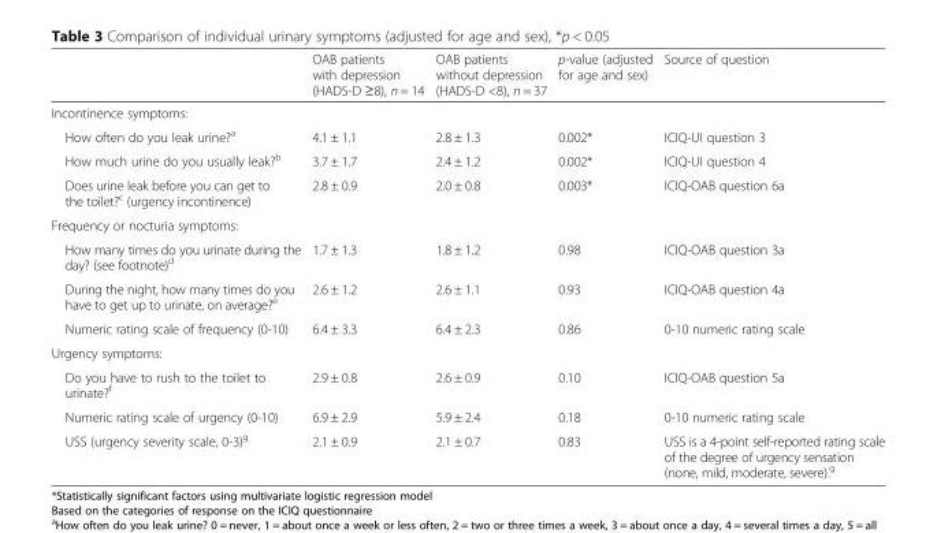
<table><thead><tr><td></td><td>OAB patients with depression (HADS-D ≥8), n = 14</td><td>OAB patients without depression (HADS-D &lt;8), n = 37</td><td>p-value (adjusted for age and sex)</td><td>Source of question</td></tr></thead><tbody><tr><td colspan="5">Incontinence symptoms:</td></tr><tr><td>How often do you leak urine?<sup>a</sup></td><td>4.1 ± 1.1</td><td>2.8 ± 1.3</td><td>0.002*</td><td>ICIQ-UI question 3</td></tr><tr><td>How much urine do you usually leak?<sup>b</sup></td><td>3.7 ± 1.7</td><td>2.4 ± 1.2</td><td>0.002*</td><td>ICIQ-UI question 4</td></tr><tr><td>Does urine leak before you can get to the toilet?<sup>c</sup> (urgency incontinence)</td><td>2.8 ± 0.9</td><td>2.0 ± 0.8</td><td>0.003*</td><td>ICIQ-OAB question 6a</td></tr><tr><td colspan="5">Frequency or nocturia symptoms:</td></tr><tr><td>How many times do you urinate during the day? (see footnote)<sup>d</sup></td><td>1.7 ± 1.3</td><td>1.8 ± 1.2</td><td>0.98</td><td>ICIQ-OAB question 3a</td></tr><tr><td>During the night, how many times do you have to get up to urinate, on average?<sup>e</sup></td><td>2.6 ± 1.2</td><td>2.6 ± 1.1</td><td>0.93</td><td>ICIQ-OAB question 4a</td></tr><tr><td>Numeric rating scale of frequency (0-10)</td><td>6.4 ± 3.3</td><td>6.4 ± 2.3</td><td>0.86</td><td>0-10 numeric rating scale</td></tr><tr><td colspan="5">Urgency symptoms:</td></tr><tr><td>Do you have to rush to the toilet to urinate?<sup>f</sup></td><td>2.9 ± 0.8</td><td>2.6 ± 0.9</td><td>0.10</td><td>ICIQ-OAB question 5a</td></tr><tr><td>Numeric rating scale of urgency (0-10)</td><td>6.9 ± 2.9</td><td>5.9 ± 2.4</td><td>0.18</td><td>0-10 numeric rating scale</td></tr><tr><td>USS (urgency severity scale, 0-3)<sup>g</sup></td><td>2.1 ± 0.9</td><td>2.1 ± 0.7</td><td>0.83</td><td>USS is a 4-point self-reported rating scale of the degree of urgency sensation (none, mild, moderate, severe).<sup>g</sup></td></tr></tbody></table>